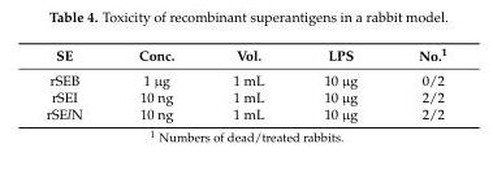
<table><thead><tr><td>SE</td><td>Conc.</td><td>Vol.</td><td>LPS</td><td>No.<sup>1</sup></td></tr></thead><tbody><tr><td>rSEB</td><td>1 µg</td><td>1 mL</td><td>10 µg</td><td>0/2</td></tr><tr><td>rSEI</td><td>10 ng</td><td>1 mL</td><td>10 µg</td><td>2/2</td></tr><tr><td>rSElN</td><td>10 ng</td><td>1 mL</td><td>10 µg</td><td>2/2</td></tr></tbody></table>